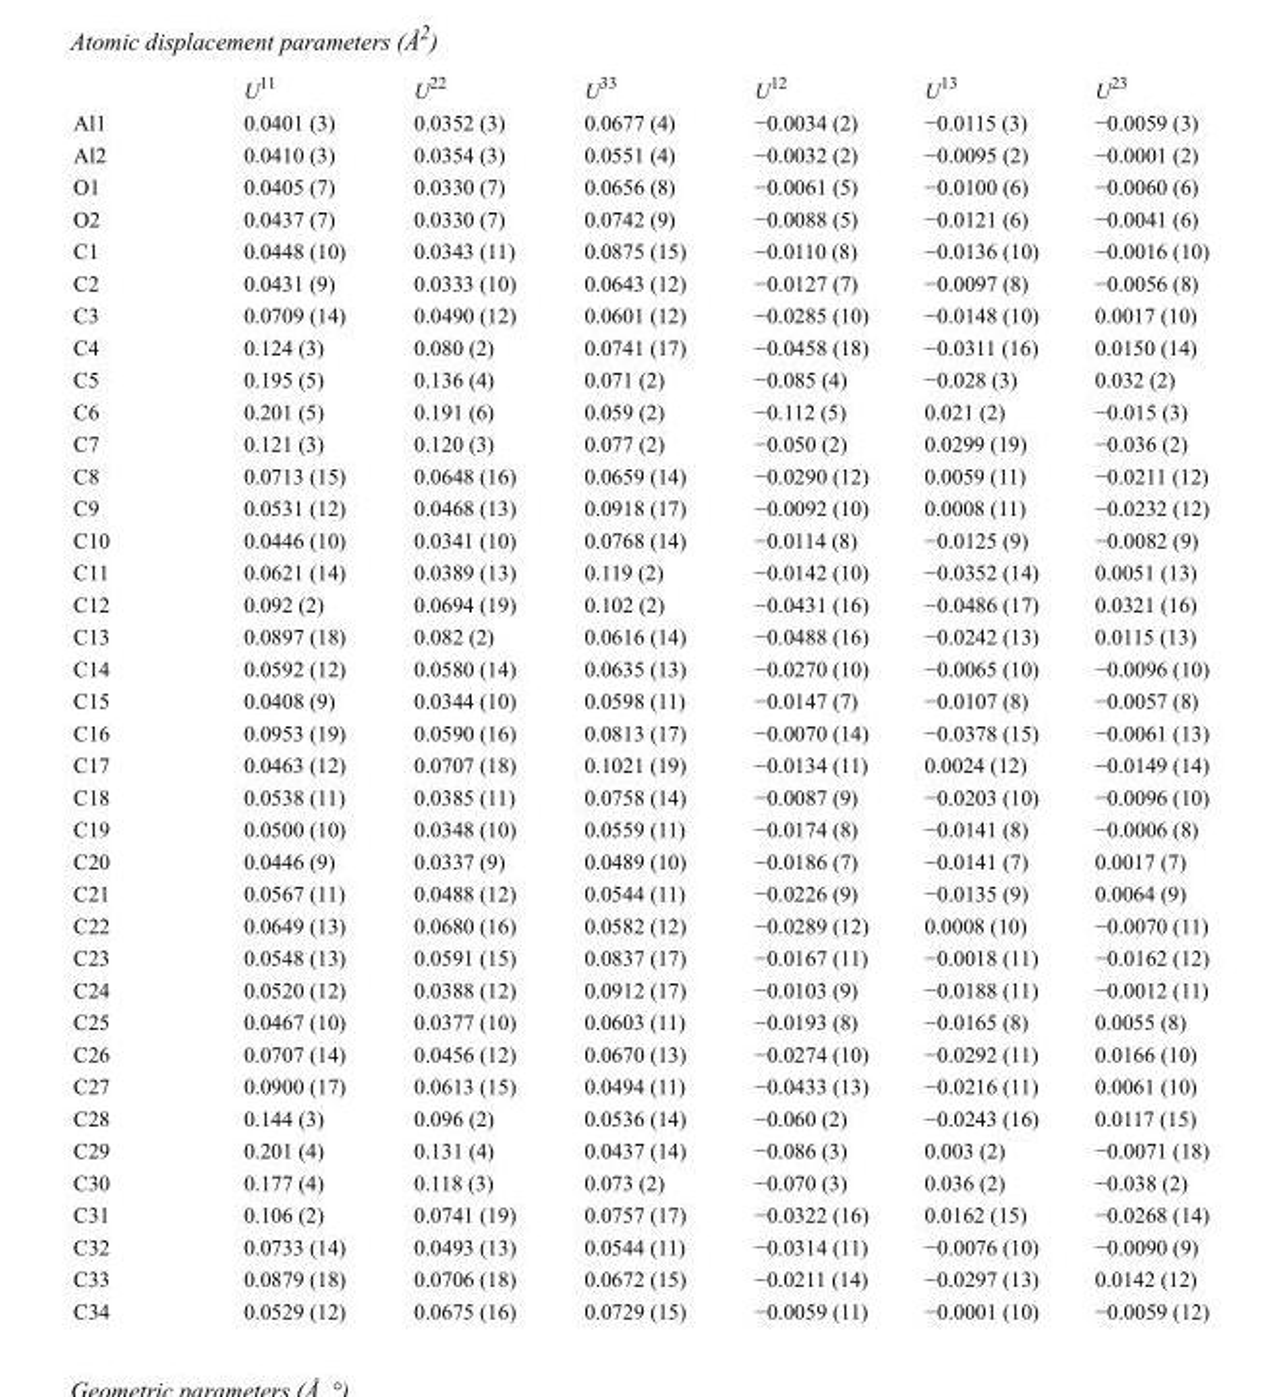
<table><thead><tr><td></td><td>U<sup>11</sup></td><td>U<sup>22</sup></td><td>U<sup>33</sup></td><td>U<sup>12</sup></td><td>U<sup>13</sup></td><td>U<sup>23</sup></td></tr></thead><tbody><tr><td>Al1</td><td>0.0401 (3)</td><td>0.0352 (3)</td><td>0.0677 (4)</td><td>−0.0034 (2)</td><td>−0.0115 (3)</td><td>−0.0059 (3)</td></tr><tr><td>Al2</td><td>0.0410 (3)</td><td>0.0354 (3)</td><td>0.0551 (4)</td><td>−0.0032 (2)</td><td>−0.0095 (2)</td><td>−0.0001 (2)</td></tr><tr><td>O1</td><td>0.0405 (7)</td><td>0.0330 (7)</td><td>0.0656 (8)</td><td>−0.0061 (5)</td><td>−0.0100 (6)</td><td>−0.0060 (6)</td></tr><tr><td>O2</td><td>0.0437 (7)</td><td>0.0330 (7)</td><td>0.0742 (9)</td><td>−0.0088 (5)</td><td>−0.0121 (6)</td><td>−0.0041 (6)</td></tr><tr><td>C1</td><td>0.0448 (10)</td><td>0.0343 (11)</td><td>0.0875 (15)</td><td>−0.0110 (8)</td><td>−0.0136 (10)</td><td>−0.0016 (10)</td></tr><tr><td>C2</td><td>0.0431 (9)</td><td>0.0333 (10)</td><td>0.0643 (12)</td><td>−0.0127 (7)</td><td>−0.0097 (8)</td><td>−0.0056 (8)</td></tr><tr><td>C3</td><td>0.0709 (14)</td><td>0.0490 (12)</td><td>0.0601 (12)</td><td>−0.0285 (10)</td><td>−0.0148 (10)</td><td>0.0017 (10)</td></tr><tr><td>C4</td><td>0.124 (3)</td><td>0.080 (2)</td><td>0.0741 (17)</td><td>−0.0458 (18)</td><td>−0.0311 (16)</td><td>0.0150 (14)</td></tr><tr><td>C5</td><td>0.195 (5)</td><td>0.136 (4)</td><td>0.071 (2)</td><td>−0.085 (4)</td><td>−0.028 (3)</td><td>0.032 (2)</td></tr><tr><td>C6</td><td>0.201 (5)</td><td>0.191 (6)</td><td>0.059 (2)</td><td>−0.112 (5)</td><td>0.021 (2)</td><td>−0.015 (3)</td></tr><tr><td>C7</td><td>0.121 (3)</td><td>0.120 (3)</td><td>0.077 (2)</td><td>−0.050 (2)</td><td>0.0299 (19)</td><td>−0.036 (2)</td></tr><tr><td>C8</td><td>0.0713 (15)</td><td>0.0648 (16)</td><td>0.0659 (14)</td><td>−0.0290 (12)</td><td>0.0059 (11)</td><td>−0.0211 (12)</td></tr><tr><td>C9</td><td>0.0531 (12)</td><td>0.0468 (13)</td><td>0.0918 (17)</td><td>−0.0092 (10)</td><td>0.0008 (11)</td><td>−0.0232 (12)</td></tr><tr><td>C10</td><td>0.0446 (10)</td><td>0.0341 (10)</td><td>0.0768 (14)</td><td>−0.0114 (8)</td><td>−0.0125 (9)</td><td>−0.0082 (9)</td></tr><tr><td>C11</td><td>0.0621 (14)</td><td>0.0389 (13)</td><td>0.119 (2)</td><td>−0.0142 (10)</td><td>−0.0352 (14)</td><td>0.0051 (13)</td></tr><tr><td>C12</td><td>0.092 (2)</td><td>0.0694 (19)</td><td>0.102 (2)</td><td>−0.0431 (16)</td><td>−0.0486 (17)</td><td>0.0321 (16)</td></tr><tr><td>C13</td><td>0.0897 (18)</td><td>0.082 (2)</td><td>0.0616 (14)</td><td>−0.0488 (16)</td><td>−0.0242 (13)</td><td>0.0115 (13)</td></tr><tr><td>C14</td><td>0.0592 (12)</td><td>0.0580 (14)</td><td>0.0635 (13)</td><td>−0.0270 (10)</td><td>−0.0065 (10)</td><td>−0.0096 (10)</td></tr><tr><td>C15</td><td>0.0408 (9)</td><td>0.0344 (10)</td><td>0.0598 (11)</td><td>−0.0147 (7)</td><td>−0.0107 (8)</td><td>−0.0057 (8)</td></tr><tr><td>C16</td><td>0.0953 (19)</td><td>0.0590 (16)</td><td>0.0813 (17)</td><td>−0.0070 (14)</td><td>−0.0378 (15)</td><td>−0.0061 (13)</td></tr><tr><td>C17</td><td>0.0463 (12)</td><td>0.0707 (18)</td><td>0.1021 (19)</td><td>−0.0134 (11)</td><td>0.0024 (12)</td><td>−0.0149 (14)</td></tr><tr><td>C18</td><td>0.0538 (11)</td><td>0.0385 (11)</td><td>0.0758 (14)</td><td>−0.0087 (9)</td><td>−0.0203 (10)</td><td>−0.0096 (10)</td></tr><tr><td>C19</td><td>0.0500 (10)</td><td>0.0348 (10)</td><td>0.0559 (11)</td><td>−0.0174 (8)</td><td>−0.0141 (8)</td><td>−0.0006 (8)</td></tr><tr><td>C20</td><td>0.0446 (9)</td><td>0.0337 (9)</td><td>0.0489 (10)</td><td>−0.0186 (7)</td><td>−0.0141 (7)</td><td>0.0017 (7)</td></tr><tr><td>C21</td><td>0.0567 (11)</td><td>0.0488 (12)</td><td>0.0544 (11)</td><td>−0.0226 (9)</td><td>−0.0135 (9)</td><td>0.0064 (9)</td></tr><tr><td>C22</td><td>0.0649 (13)</td><td>0.0680 (16)</td><td>0.0582 (12)</td><td>−0.0289 (12)</td><td>0.0008 (10)</td><td>−0.0070 (11)</td></tr><tr><td>C23</td><td>0.0548 (13)</td><td>0.0591 (15)</td><td>0.0837 (17)</td><td>−0.0167 (11)</td><td>−0.0018 (11)</td><td>−0.0162 (12)</td></tr><tr><td>C24</td><td>0.0520 (12)</td><td>0.0388 (12)</td><td>0.0912 (17)</td><td>−0.0103 (9)</td><td>−0.0188 (11)</td><td>−0.0012 (11)</td></tr><tr><td>C25</td><td>0.0467 (10)</td><td>0.0377 (10)</td><td>0.0603 (11)</td><td>−0.0193 (8)</td><td>−0.0165 (8)</td><td>0.0055 (8)</td></tr><tr><td>C26</td><td>0.0707 (14)</td><td>0.0456 (12)</td><td>0.0670 (13)</td><td>−0.0274 (10)</td><td>−0.0292 (11)</td><td>0.0166 (10)</td></tr><tr><td>C27</td><td>0.0900 (17)</td><td>0.0613 (15)</td><td>0.0494 (11)</td><td>−0.0433 (13)</td><td>−0.0216 (11)</td><td>0.0061 (10)</td></tr><tr><td>C28</td><td>0.144 (3)</td><td>0.096 (2)</td><td>0.0536 (14)</td><td>−0.060 (2)</td><td>−0.0243 (16)</td><td>0.0117 (15)</td></tr><tr><td>C29</td><td>0.201 (4)</td><td>0.131 (4)</td><td>0.0437 (14)</td><td>−0.086 (3)</td><td>0.003 (2)</td><td>−0.0071 (18)</td></tr><tr><td>C30</td><td>0.177 (4)</td><td>0.118 (3)</td><td>0.073 (2)</td><td>−0.070 (3)</td><td>0.036 (2)</td><td>−0.038 (2)</td></tr><tr><td>C31</td><td>0.106 (2)</td><td>0.0741 (19)</td><td>0.0757 (17)</td><td>−0.0322 (16)</td><td>0.0162 (15)</td><td>−0.0268 (14)</td></tr><tr><td>C32</td><td>0.0733 (14)</td><td>0.0493 (13)</td><td>0.0544 (11)</td><td>−0.0314 (11)</td><td>−0.0076 (10)</td><td>−0.0090 (9)</td></tr><tr><td>C33</td><td>0.0879 (18)</td><td>0.0706 (18)</td><td>0.0672 (15)</td><td>−0.0211 (14)</td><td>−0.0297 (13)</td><td>0.0142 (12)</td></tr><tr><td>C34</td><td>0.0529 (12)</td><td>0.0675 (16)</td><td>0.0729 (15)</td><td>−0.0059 (11)</td><td>−0.0001 (10)</td><td>−0.0059 (12)</td></tr></tbody></table>